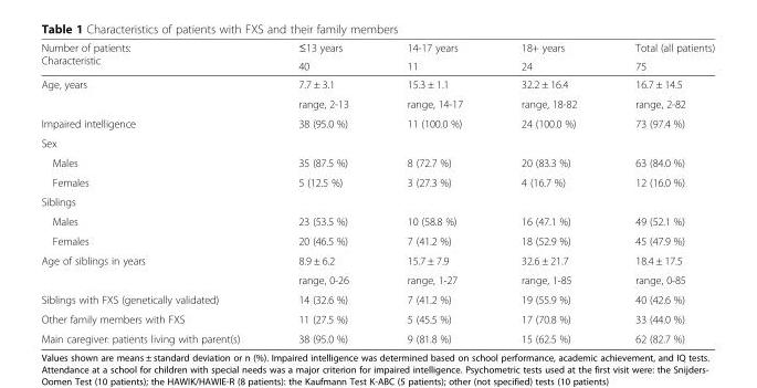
<table><thead><tr><td rowspan="2">Number of patients: Characteristic</td><td rowspan="2">≤13 years 40</td><td rowspan="2">14-17 years 11</td><td rowspan="2">18+ years 24</td><td rowspan="2">Total (all patients) 75</td></tr><tr></tr></thead><tbody><tr><td rowspan="2">Age, years</td><td>7.7 ± 3.1</td><td>15.3 ± 1.1</td><td>32.2 ± 16.4</td><td>16.7 ± 14.5</td></tr><tr><td>range, 2-13</td><td>range, 14-17</td><td>range, 18-82</td><td>range, 2-82</td></tr><tr><td>Impaired intelligence</td><td>38 (95.0 %)</td><td>11 (100.0 %)</td><td>24 (100.0 %)</td><td>73 (97.4 %)</td></tr><tr><td colspan="5">Sex</td></tr><tr><td>Males</td><td>35 (87.5 %)</td><td>8 (72.7 %)</td><td>20 (83.3 %)</td><td>63 (84.0 %)</td></tr><tr><td>Females</td><td>5 (12.5 %)</td><td>3 (27.3 %)</td><td>4 (16.7 %)</td><td>12 (16.0 %)</td></tr><tr><td colspan="5">Siblings</td></tr><tr><td>Males</td><td>23 (53.5 %)</td><td>10 (58.8 %)</td><td>16 (47.1 %)</td><td>49 (52.1 %)</td></tr><tr><td>Females</td><td>20 (46.5 %)</td><td>7 (41.2 %)</td><td>18 (52.9 %)</td><td>45 (47.9 %)</td></tr><tr><td rowspan="2">Age of siblings in years</td><td>8.9 ± 6.2</td><td>15.7 ± 7.9</td><td>32.6 ± 21.7</td><td>18.4 ± 17.5</td></tr><tr><td>range, 0-26</td><td>range, 1-27</td><td>range, 1-85</td><td>range, 0-85</td></tr><tr><td>Siblings with FXS (genetically validated)</td><td>14 (32.6 %)</td><td>7 (41.2 %)</td><td>19 (55.9 %)</td><td>40 (42.6 %)</td></tr><tr><td>Other family members with FXS</td><td>11 (27.5 %)</td><td>5 (45.5 %)</td><td>17 (70.8 %)</td><td>33 (44.0 %)</td></tr><tr><td>Main caregiver: patients living with parent(s)</td><td>38 (95.0 %)</td><td>9 (81.8 %)</td><td>15 (62.5 %)</td><td>62 (82.7 %)</td></tr></tbody></table>